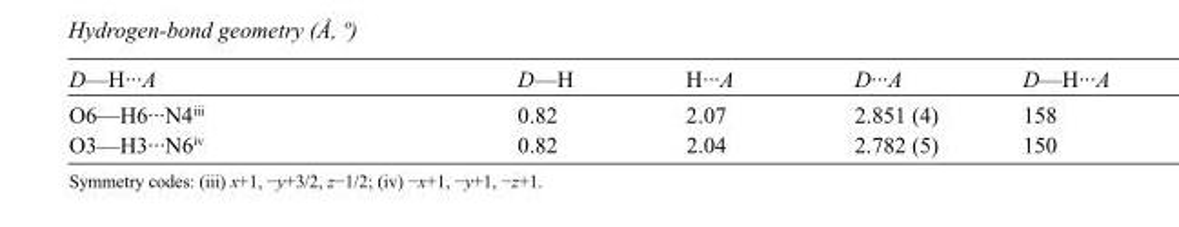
<table><tbody><tr><td>D—H···A</td><td>D—H</td><td>H···A</td><td>D···A</td><td>D—H···A</td></tr><tr><td>O6—H6···N4<sup>iii</sup></td><td>0.82</td><td>2.07</td><td>2.851 (4)</td><td>158</td></tr><tr><td>O3—H3···N6<sup>iv</sup></td><td>0.82</td><td>2.04</td><td>2.782 (5)</td><td>150</td></tr></tbody></table>